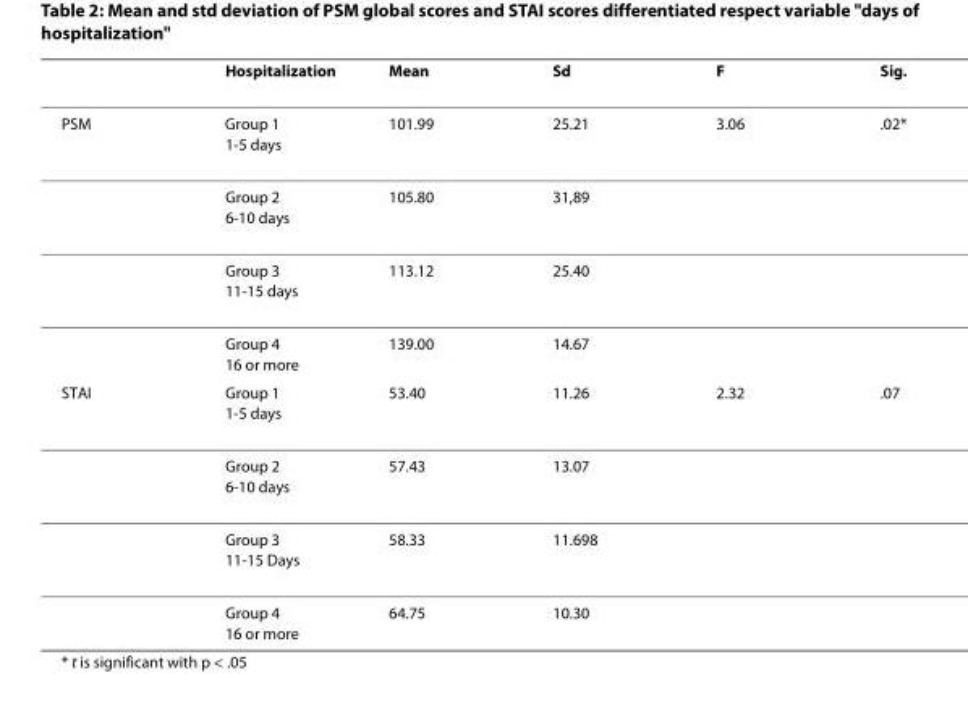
<table><thead><tr><td></td><td>Hospitalization</td><td>Mean</td><td>Sd</td><td>F</td><td>Sig.</td></tr></thead><tbody><tr><td rowspan="4">PSM</td><td>Group 1 1-5 days</td><td>101.99</td><td>25.21</td><td>3.06</td><td>.02*</td></tr><tr><td>Group 2 6-10 days</td><td>105.80</td><td>31,89</td><td></td><td></td></tr><tr><td>Group 3 11-15 days</td><td>113.12</td><td>25.40</td><td></td><td></td></tr><tr><td>Group 4 16 or more</td><td>139.00</td><td>14.67</td><td></td><td></td></tr><tr><td rowspan="4">STAI</td><td>Group 1 1-5 days</td><td>53.40</td><td>11.26</td><td>2.32</td><td>.07</td></tr><tr><td>Group 2 6-10 days</td><td>57.43</td><td>13.07</td><td></td><td></td></tr><tr><td>Group 3 11-15 Days</td><td>58.33</td><td>11.698</td><td></td><td></td></tr><tr><td>Group 4 16 or more</td><td>64.75</td><td>10.30</td><td></td><td></td></tr></tbody></table>